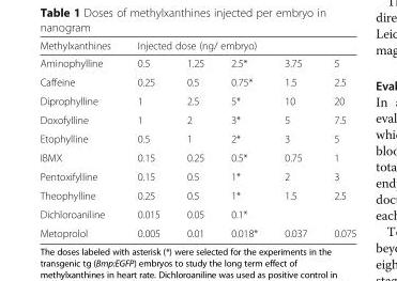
<table><thead><tr><td rowspan="2">Methylxanthines Aminophylline</td><td colspan="5">Injected dose (ng/ embryo)</td></tr><tr><td>0.5</td><td>1.25</td><td>2.5*</td><td>3.75</td><td>5</td></tr></thead><tbody><tr><td>Caffeine</td><td>0.25</td><td>0.5</td><td>0.75*</td><td>1.5</td><td>2.5</td></tr><tr><td>Diprophylline</td><td>1</td><td>2.5</td><td>5*</td><td>10</td><td>20</td></tr><tr><td>Doxofylline</td><td>1</td><td>2</td><td>3*</td><td>5</td><td>7.5</td></tr><tr><td>Etophylline</td><td>0.5</td><td>1</td><td>2*</td><td>3</td><td>5</td></tr><tr><td>IBMX</td><td>0.15</td><td>0.25</td><td>0.5*</td><td>0.75</td><td>1</td></tr><tr><td>Pentoxifylline</td><td>0.15</td><td>0.5</td><td>1*</td><td>2</td><td>3</td></tr><tr><td>Theophylline</td><td>0.25</td><td>0.5</td><td>1*</td><td>1.5</td><td>2.5</td></tr><tr><td>Dichloroaniline</td><td>0.015</td><td>0.05</td><td>0.1*</td><td></td><td></td></tr><tr><td>Metoprolol</td><td>0.005</td><td>0.01</td><td>0.018*</td><td>0.037</td><td>0.075</td></tr></tbody></table>